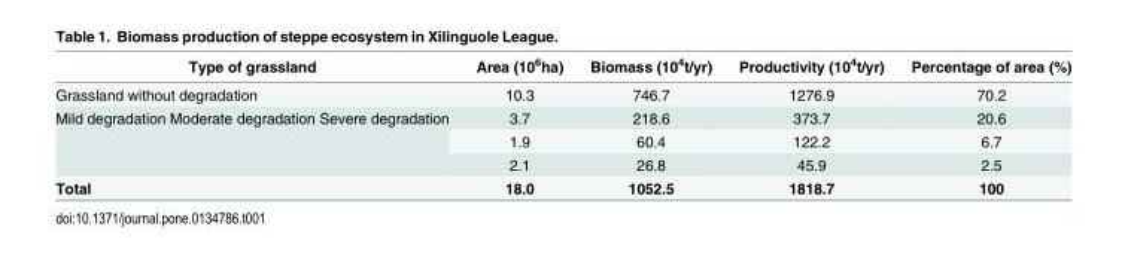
<table><thead><tr><td>Type of grassland</td><td>Area (10<sup>6</sup>ha)</td><td>Biomass (10<sup>4</sup>t/yr)</td><td>Productivity (10<sup>4</sup>t/yr)</td><td>Percentage of area (%)</td></tr></thead><tbody><tr><td>Grassland without degradation</td><td>10.3</td><td>746.7</td><td>1276.9</td><td>70.2</td></tr><tr><td rowspan="3">Mild degradation Moderate degradation Severe degradation</td><td>3.7</td><td>218.6</td><td>373.7</td><td>20.6</td></tr><tr><td>1.9</td><td>60.4</td><td>122.2</td><td>6.7</td></tr><tr><td>2.1</td><td>26.8</td><td>45.9</td><td>2.5</td></tr><tr><td>Total</td><td>18.0</td><td>1052.5</td><td>1818.7</td><td>100</td></tr></tbody></table>